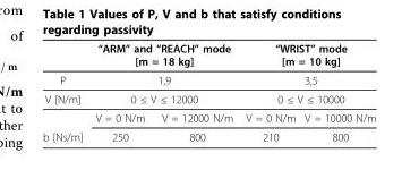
<table><thead><tr><td rowspan="4">P V [N/m]</td><td rowspan="3" colspan="2">“ARM” and “REACH” mode [m = 18 kg] 1,9 0 ≤ V ≤ 12000</td><td rowspan="3" colspan="2">“WRIST” mode [m = 10 kg] 3,5 0 ≤ V ≤ 10000</td></tr><tr></tr><tr></tr><tr><td>V = 0 N/m</td><td>V = 12000 N/m</td><td>V = 0 N/m</td><td>V = 10000 N/m</td></tr></thead><tbody><tr><td>b [Ns/m]</td><td>250</td><td>800</td><td>210</td><td>800</td></tr></tbody></table>